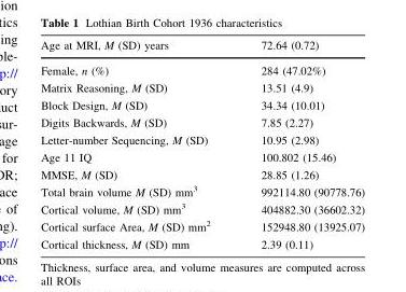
<table><thead><tr><td>Age at MRI, M (SD) years</td><td>72.64 (0.72)</td></tr></thead><tbody><tr><td>Female, n (%)</td><td>284 (47.02%)</td></tr><tr><td>Matrix Reasoning, M (SD)</td><td>13.51 (4.9)</td></tr><tr><td>Block Design, M (SD)</td><td>34.34 (10.01)</td></tr><tr><td>Digits Backwards, M (SD)</td><td>7.85 (2.27)</td></tr><tr><td>Letter-number Sequencing, M (SD)</td><td>10.95 (2.98)</td></tr><tr><td>Age 11 IQ</td><td>100.802 (15.46)</td></tr><tr><td>MMSE, M (SD)</td><td>28.85 (1.26)</td></tr><tr><td>Total brain volume M (SD) mm<sup>3</sup></td><td>992114.80 (90778.76)</td></tr><tr><td>Cortical volume, M (SD) mm<sup>3</sup></td><td>404882.30 (36602.32)</td></tr><tr><td>Cortical surface Area, M (SD) mm<sup>2</sup></td><td>152948.80 (13925.07)</td></tr><tr><td>Cortical thickness, M (SD) mm</td><td>2.39 (0.11)</td></tr></tbody></table>